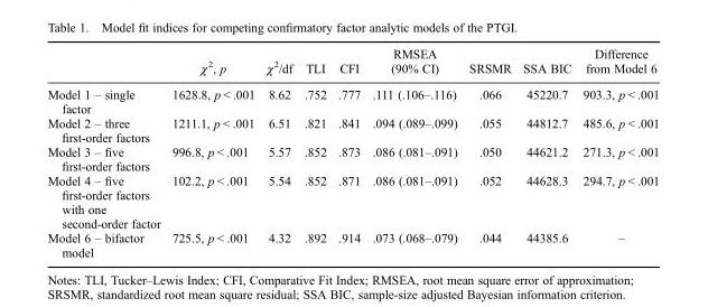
<table><thead><tr><td></td><td>χ<sup>2</sup>, p</td><td>χ<sup>2</sup>/df</td><td>TLI</td><td>CFI</td><td>RMSEA (90% CI)</td><td>SRSMR</td><td>SSA BIC</td><td>Difference from Model 6</td></tr></thead><tbody><tr><td>Model 1 – single factor</td><td>1628.8, p &lt; .001</td><td>8.62</td><td>.752</td><td>.777</td><td>.111 (.106–.116)</td><td>.066</td><td>45220.7</td><td>903.3, p &lt; .001</td></tr><tr><td>Model 2 – three first-order factors</td><td>1211.1, p &lt; .001</td><td>6.51</td><td>.821</td><td>.841</td><td>.094 (.089–.099)</td><td>.055</td><td>44812.7</td><td>485.6, p &lt; .001</td></tr><tr><td>Model 3 – five first-order factors</td><td>996.8, p &lt; .001</td><td>5.57</td><td>.852</td><td>.873</td><td>.086 (.081–.091)</td><td>.050</td><td>44621.2</td><td>271.3, p &lt; .001</td></tr><tr><td>Model 4 – five first-order factors with one second-order factor</td><td>102.2, p &lt; .001</td><td>5.54</td><td>.852</td><td>.871</td><td>.086 (.081–.091)</td><td>.052</td><td>44628.3</td><td>294.7, p &lt; .001</td></tr><tr><td>Model 6 – bifactor model</td><td>725.5, p &lt; .001</td><td>4.32</td><td>.892</td><td>.914</td><td>.073 (.068–.079)</td><td>.044</td><td>44385.6</td><td>–</td></tr></tbody></table>